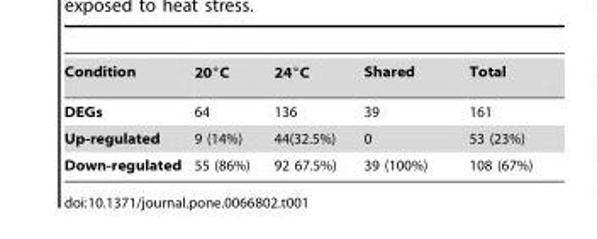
<table><tbody><tr><td>Condition</td><td>20°C</td><td>24°C</td><td>Shared</td><td>Total</td></tr><tr><td>DEGs</td><td>64</td><td>136</td><td>39</td><td>161</td></tr><tr><td>Up-regulated</td><td>9 (14%)</td><td>44(32.5%)</td><td>0</td><td>53 (23%)</td></tr><tr><td>Down-regulated</td><td>55 (86%)</td><td>92 67.5%)</td><td>39 (100%)</td><td>108 (67%)</td></tr></tbody></table>